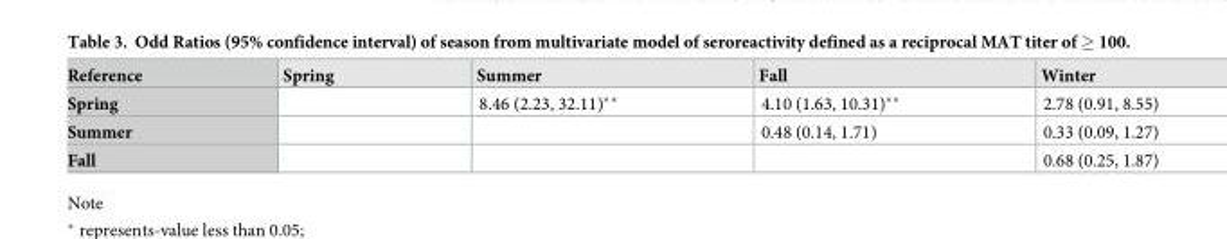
<table><thead><tr><td>Reference</td><td>Spring</td><td>Summer</td><td>Fall</td><td>Winter</td></tr></thead><tbody><tr><td>Spring</td><td></td><td>8.46 (2.23, 32.11)**</td><td>4.10 (1.63, 10.31)**</td><td>2.78 (0.91, 8.55)</td></tr><tr><td>Summer</td><td></td><td></td><td>0.48 (0.14, 1.71)</td><td>0.33 (0.09, 1.27)</td></tr><tr><td>Fall</td><td></td><td></td><td></td><td>0.68 (0.25, 1.87)</td></tr></tbody></table>